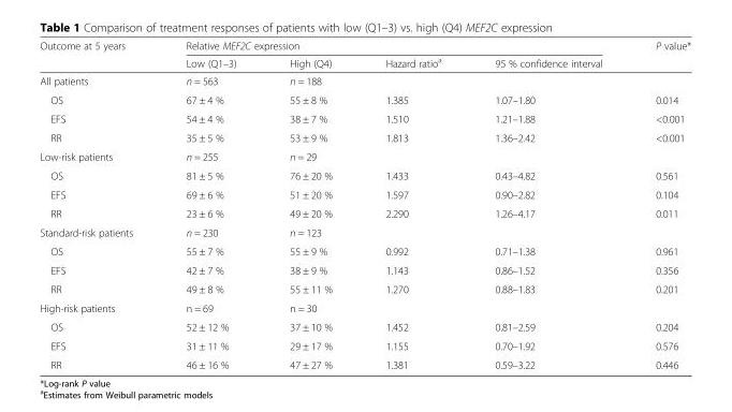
<table><thead><tr><td rowspan="2">Outcome at 5 years</td><td colspan="4">Relative MEF2C expression</td><td rowspan="2">P value*</td></tr><tr><td>Low (Q1–3)</td><td>High (Q4)</td><td>Hazard ratio<sup>a</sup></td><td>95 % confidence interval</td></tr></thead><tbody><tr><td>All patients</td><td>n = 563</td><td>n = 188</td><td></td><td></td><td></td></tr><tr><td>OS</td><td>67 ± 4 %</td><td>55 ± 8 %</td><td>1.385</td><td>1.07–1.80</td><td>0.014</td></tr><tr><td>EFS</td><td>54 ± 4 %</td><td>38 ± 7 %</td><td>1.510</td><td>1.21–1.88</td><td>&lt;0.001</td></tr><tr><td>RR</td><td>35 ± 5 %</td><td>53 ± 9 %</td><td>1.813</td><td>1.36–2.42</td><td>&lt;0.001</td></tr><tr><td>Low-risk patients</td><td>n = 255</td><td>n = 29</td><td></td><td></td><td></td></tr><tr><td>OS</td><td>81 ± 5 %</td><td>76 ± 20 %</td><td>1.433</td><td>0.43–4.82</td><td>0.561</td></tr><tr><td>EFS</td><td>69 ± 6 %</td><td>51 ± 20 %</td><td>1.597</td><td>0.90–2.82</td><td>0.104</td></tr><tr><td>RR</td><td>23 ± 6 %</td><td>49 ± 20 %</td><td>2.290</td><td>1.26–4.17</td><td>0.011</td></tr><tr><td>Standard-risk patients</td><td>n = 230</td><td>n = 123</td><td></td><td></td><td></td></tr><tr><td>OS</td><td>55 ± 7 %</td><td>55 ± 9 %</td><td>0.992</td><td>0.71–1.38</td><td>0.961</td></tr><tr><td>EFS</td><td>42 ± 7 %</td><td>38 ± 9 %</td><td>1.143</td><td>0.86–1.52</td><td>0.356</td></tr><tr><td>RR</td><td>49 ± 8 %</td><td>55 ± 11 %</td><td>1.270</td><td>0.88–1.83</td><td>0.201</td></tr><tr><td>High-risk patients</td><td>n = 69</td><td>n = 30</td><td></td><td></td><td></td></tr><tr><td>OS</td><td>52 ± 12 %</td><td>37 ± 10 %</td><td>1.452</td><td>0.81–2.59</td><td>0.204</td></tr><tr><td>EFS</td><td>31 ± 11 %</td><td>29 ± 17 %</td><td>1.155</td><td>0.70–1.92</td><td>0.576</td></tr><tr><td>RR</td><td>46 ± 16 %</td><td>47 ± 27 %</td><td>1.381</td><td>0.59–3.22</td><td>0.446</td></tr></tbody></table>